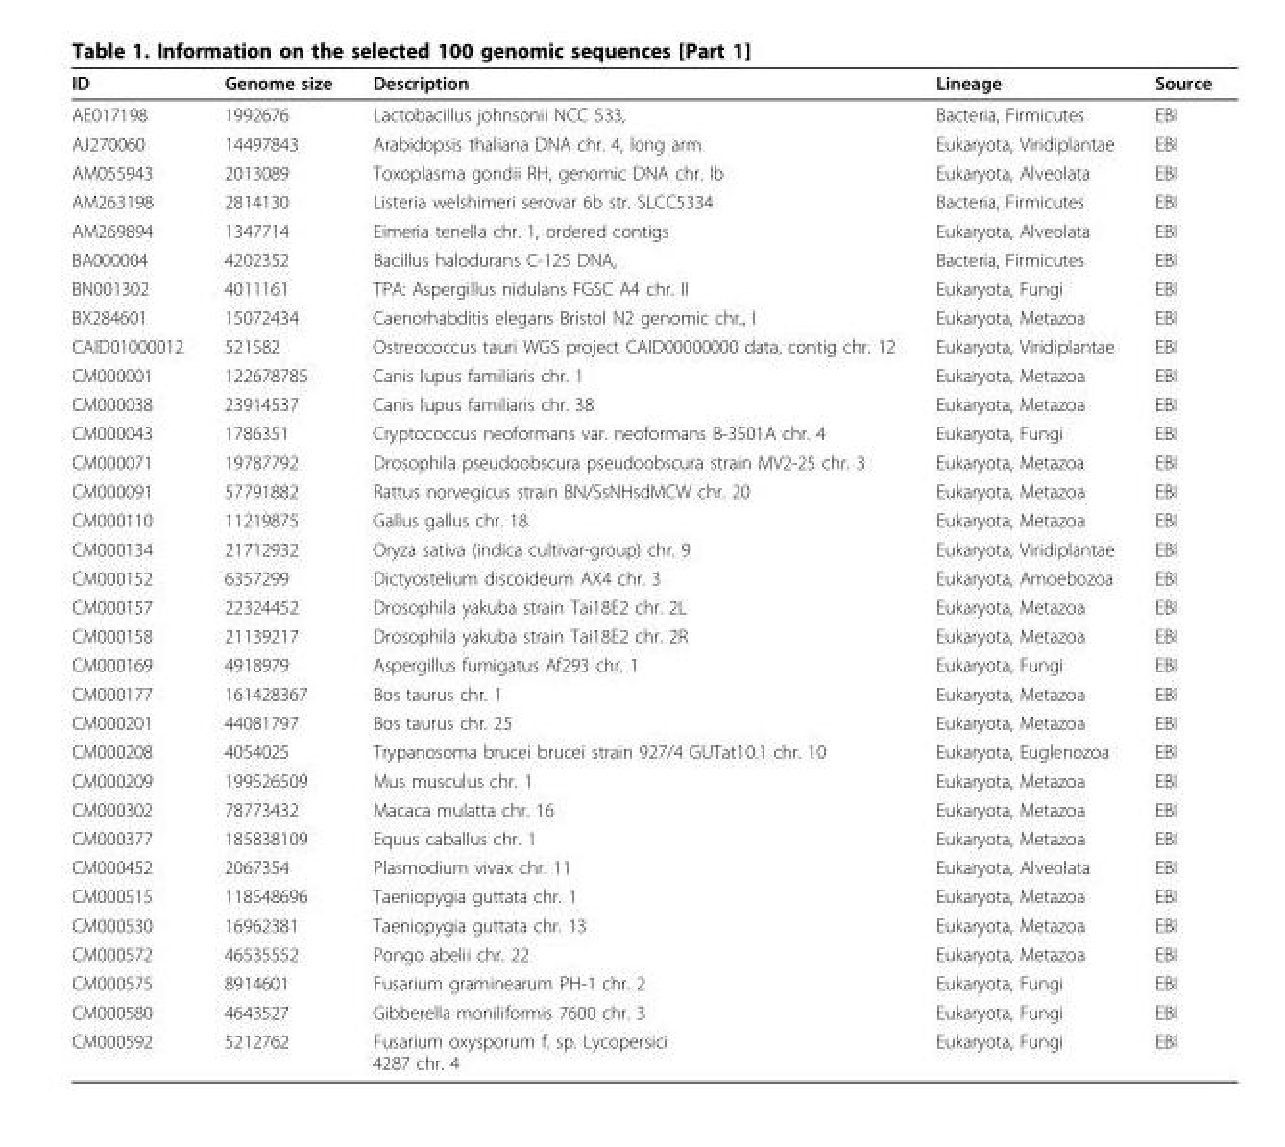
<table><thead><tr><td>ID</td><td>Genome size</td><td>Description</td><td>Lineage</td><td>Source</td></tr></thead><tbody><tr><td>AE017198</td><td>1992676</td><td>Lactobacillus johnsonii NCC 533,</td><td>Bacteria, Firmicutes</td><td>EBI</td></tr><tr><td>AJ270060</td><td>14497843</td><td>Arabidopsis thaliana DNA chr. 4, long arm</td><td>Eukaryota, Viridiplantae</td><td>EBI</td></tr><tr><td>AM055943</td><td>2013089</td><td>Toxoplasma gondii RH, genomic DNA chr. Ib</td><td>Eukaryota, Alveolata</td><td>EBI</td></tr><tr><td>AM263198</td><td>2814130</td><td>Listeria welshimeri serovar 6b str. SLCC5334</td><td>Bacteria, Firmicutes</td><td>EBI</td></tr><tr><td>AM269894</td><td>1347714</td><td>Eimeria tenella chr. 1, ordered contigs</td><td>Eukaryota, Alveolata</td><td>EBI</td></tr><tr><td>BA000004</td><td>4202352</td><td>Bacillus halodurans C-125 DNA,</td><td>Bacteria, Firmicutes</td><td>EBI</td></tr><tr><td>BN001302</td><td>4011161</td><td>TPA: Aspergillus nidulans FGSC A4 chr. II</td><td>Eukaryota, Fungi</td><td>EBI</td></tr><tr><td>BX284601</td><td>15072434</td><td>Caenorhabditis elegans Bristol N2 genomic chr., I</td><td>Eukaryota, Metazoa</td><td>EBI</td></tr><tr><td>CAID01000012</td><td>521582</td><td>Ostreococcus tauri WGS project CAID00000000 data, contig chr. 12</td><td>Eukaryota, Viridiplantae</td><td>EBI</td></tr><tr><td>CM000001</td><td>122678785</td><td>Canis lupus familiaris chr. 1</td><td>Eukaryota, Metazoa</td><td>EBI</td></tr><tr><td>CM000038</td><td>23914537</td><td>Canis lupus familiaris chr. 38</td><td>Eukaryota, Metazoa</td><td>EBI</td></tr><tr><td>CM000043</td><td>1786351</td><td>Cryptococcus neoformans var. neoformans B-3501A chr. 4</td><td>Eukaryota, Fungi</td><td>EBI</td></tr><tr><td>CM000071</td><td>19787792</td><td>Drosophila pseudoobscura pseudoobscura strain MV2-25 chr. 3</td><td>Eukaryota, Metazoa</td><td>EBI</td></tr><tr><td>CM000091</td><td>57791882</td><td>Rattus norvegicus strain BN/SsNHsdMCW chr. 20</td><td>Eukaryota, Metazoa</td><td>EBI</td></tr><tr><td>CM000110</td><td>11219875</td><td>Gallus gallus chr. 18</td><td>Eukaryota, Metazoa</td><td>EBI</td></tr><tr><td>CM000134</td><td>21712932</td><td>Oryza sativa (indica cultivar-group) chr. 9</td><td>Eukaryota, Viridiplantae</td><td>EBI</td></tr><tr><td>CM000152</td><td>6357299</td><td>Dictyostelium discoideum AX4 chr. 3</td><td>Eukaryota, Amoebozoa</td><td>EBI</td></tr><tr><td>CM000157</td><td>22324452</td><td>Drosophila yakuba strain Tai18E2 chr. 2L</td><td>Eukaryota, Metazoa</td><td>EBI</td></tr><tr><td>CM000158</td><td>21139217</td><td>Drosophila yakuba strain Tai18E2 chr. 2R</td><td>Eukaryota, Metazoa</td><td>EBI</td></tr><tr><td>CM000169</td><td>4918979</td><td>Aspergillus fumigatus Af293 chr. 1</td><td>Eukaryota, Fungi</td><td>EBI</td></tr><tr><td>CM000177</td><td>161428367</td><td>Bos taurus chr. 1</td><td>Eukaryota, Metazoa</td><td>EBI</td></tr><tr><td>CM000201</td><td>44081797</td><td>Bos taurus chr. 25</td><td>Eukaryota, Metazoa</td><td>EBI</td></tr><tr><td>CM000208</td><td>4054025</td><td>Trypanosoma brucei brucei strain 927/4 GUTat10.1 chr. 10</td><td>Eukaryota, Euglenozoa</td><td>EBI</td></tr><tr><td>CM000209</td><td>199526509</td><td>Mus musculus chr. 1</td><td>Eukaryota, Metazoa</td><td>EBI</td></tr><tr><td>CM000302</td><td>78773432</td><td>Macaca mulatta chr. 16</td><td>Eukaryota, Metazoa</td><td>EBI</td></tr><tr><td>CM000377</td><td>185838109</td><td>Equus caballus chr. 1</td><td>Eukaryota, Metazoa</td><td>EBI</td></tr><tr><td>CM000452</td><td>2067354</td><td>Plasmodium vivax chr. 11</td><td>Eukaryota, Alveolata</td><td>EBI</td></tr><tr><td>CM000515</td><td>118548696</td><td>Taeniopygia guttata chr. 1</td><td>Eukaryota, Metazoa</td><td>EBI</td></tr><tr><td>CM000530</td><td>16962381</td><td>Taeniopygia guttata chr. 13</td><td>Eukaryota, Metazoa</td><td>EBI</td></tr><tr><td>CM000572</td><td>46535552</td><td>Pongo abelii chr. 22</td><td>Eukaryota, Metazoa</td><td>EBI</td></tr><tr><td>CM000575</td><td>8914601</td><td>Fusarium graminearum PH-1 chr. 2</td><td>Eukaryota, Fungi</td><td>EBI</td></tr><tr><td>CM000580</td><td>4643527</td><td>Gibberella moniliformis 7600 chr. 3</td><td>Eukaryota, Fungi</td><td>EBI</td></tr><tr><td>CM000592</td><td>5212762</td><td>Fusarium oxysporum f. sp. Lycopersici 4287 chr. 4</td><td>Eukaryota, Fungi</td><td>EBI</td></tr></tbody></table>